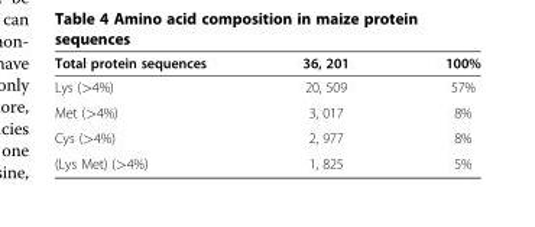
<table><thead><tr><td>Total protein sequences</td><td>36, 201</td><td>100%</td></tr></thead><tbody><tr><td>Lys (&gt;4%)</td><td>20, 509</td><td>57%</td></tr><tr><td>Met (&gt;4%)</td><td>3, 017</td><td>8%</td></tr><tr><td>Cys (&gt;4%)</td><td>2, 977</td><td>8%</td></tr><tr><td>(Lys Met) (&gt;4%)</td><td>1, 825</td><td>5%</td></tr></tbody></table>